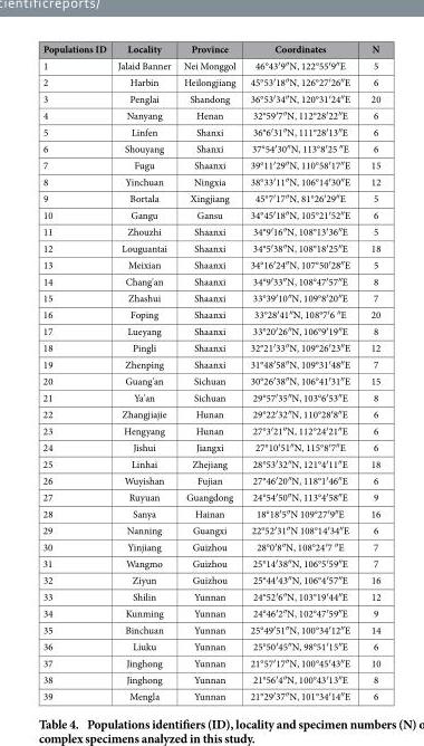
<table><thead><tr><td>Populations ID</td><td>Locality</td><td>Province</td><td>Coordinates</td><td>N</td></tr></thead><tbody><tr><td>1</td><td>Jalaid Banner</td><td>Nei Monggol</td><td>46°43′ 9″ N, 122°55′ 9″ E</td><td>5</td></tr><tr><td>2</td><td>Harbin</td><td>Heilongjiang</td><td>45°53′ 18″ N, 126°27′ 26″ E</td><td>6</td></tr><tr><td>3</td><td>Penglai</td><td>Shandong</td><td>36°53′ 34″ N, 120°31′ 24″ E</td><td>20</td></tr><tr><td>4</td><td>Nanyang</td><td>Henan</td><td>32°59′ 7″ N, 112°28′ 22″ E</td><td>6</td></tr><tr><td>5</td><td>Linfen</td><td>Shanxi</td><td>36°6′ 31″ N, 111°28′ 13″ E</td><td>6</td></tr><tr><td>6</td><td>Shouyang</td><td>Shanxi</td><td>37°54′ 30″ N, 113°8′ 25 ″ E</td><td>6</td></tr><tr><td>7</td><td>Fugu</td><td>Shaanxi</td><td>39°11′ 29″ N, 110°58′ 17″ E</td><td>15</td></tr><tr><td>8</td><td>Yinchuan</td><td>Ningxia</td><td>38°33′ 11″ N, 106°14′ 30″ E</td><td>12</td></tr><tr><td>9</td><td>Bortala</td><td>Xingjiang</td><td>45°7′ 17″ N, 81°26′ 29″ E</td><td>5</td></tr><tr><td>10</td><td>Gangu</td><td>Gansu</td><td>34°45′ 18″ N, 105°21′ 52″ E</td><td>6</td></tr><tr><td>11</td><td>Zhouzhi</td><td>Shaanxi</td><td>34°9′ 16″ N, 108°13′ 36″ E</td><td>5</td></tr><tr><td>12</td><td>Louguantai</td><td>Shaanxi</td><td>34°5′ 38″ N, 108°18′ 25″ E</td><td>18</td></tr><tr><td>13</td><td>Meixian</td><td>Shaanxi</td><td>34°16′ 24″ N, 107°50′ 28″ E</td><td>5</td></tr><tr><td>14</td><td>Chang&#x27;an</td><td>Shaanxi</td><td>34°9′ 33″ N, 108°47′ 57″ E</td><td>8</td></tr><tr><td>15</td><td>Zhashui</td><td>Shaanxi</td><td>33°39′ 10″ N, 109°8′ 20″ E</td><td>7</td></tr><tr><td>16</td><td>Foping</td><td>Shaanxi</td><td>33°28′ 41″ N, 108°7′ 6 ″ E</td><td>20</td></tr><tr><td>17</td><td>Lueyang</td><td>Shaanxi</td><td>33°20′ 26″ N, 106°9′ 19″ E</td><td>8</td></tr><tr><td>18</td><td>Pingli</td><td>Shaanxi</td><td>32°21′ 33″ N, 109°26′ 23″ E</td><td>12</td></tr><tr><td>19</td><td>Zhenping</td><td>Shaanxi</td><td>31°48′ 58″ N, 109°31′ 48″ E</td><td>7</td></tr><tr><td>20</td><td>Guang&#x27;an</td><td>Sichuan</td><td>30°26′ 38″ N, 106°41′ 31″ E</td><td>15</td></tr><tr><td>21</td><td>Ya&#x27;an</td><td>Sichuan</td><td>29°57′ 35″ N, 103°6′ 53″ E</td><td>8</td></tr><tr><td>22</td><td>Zhangjiajie</td><td>Hunan</td><td>29°22′ 32″ N, 110°28′ 8″ E</td><td>6</td></tr><tr><td>23</td><td>Hengyang</td><td>Hunan</td><td>27°3′ 21″ N, 112°24′ 21″ E</td><td>6</td></tr><tr><td>24</td><td>Jishui</td><td>Jiangxi</td><td>27°10′ 51″ N, 115°8′ 7″ E</td><td>6</td></tr><tr><td>25</td><td>Linhai</td><td>Zhejiang</td><td>28°53′ 32″ N, 121°4′ 11″ E</td><td>18</td></tr><tr><td>26</td><td>Wuyishan</td><td>Fujian</td><td>27°46′ 20″ N, 118°1′ 46″ E</td><td>6</td></tr><tr><td>27</td><td>Ruyuan</td><td>Guangdong</td><td>24°54′ 50″ N, 113°4′ 58″ E</td><td>9</td></tr><tr><td>28</td><td>Sanya</td><td>Hainan</td><td>18°18′ 5″ N 109°27′ 9″ E</td><td>16</td></tr><tr><td>29</td><td>Nanning</td><td>Guangxi</td><td>22°52′ 31″ N 108°14′ 34″ E</td><td>6</td></tr><tr><td>30</td><td>Yinjiang</td><td>Guizhou</td><td>28°0′ 8″ N, 108°24′ 7 ″ E</td><td>7</td></tr><tr><td>31</td><td>Wangmo</td><td>Guizhou</td><td>25°14′ 38″ N, 106°5′ 59″ E</td><td>7</td></tr><tr><td>32</td><td>Ziyun</td><td>Guizhou</td><td>25°44′ 43″ N, 106°4′ 57″ E</td><td>16</td></tr><tr><td>33</td><td>Shilin</td><td>Yunnan</td><td>24°52′ 6″ N, 103°19′ 44″ E</td><td>12</td></tr><tr><td>34</td><td>Kunming</td><td>Yunnan</td><td>24°46′ 2″ N, 102°47′ 59″ E</td><td>9</td></tr><tr><td>35</td><td>Binchuan</td><td>Yunnan</td><td>25°49′ 51″ N, 100°34′ 12″ E</td><td>14</td></tr><tr><td>36</td><td>Liuku</td><td>Yunnan</td><td>25°50′ 45″ N, 98°51′ 15″ E</td><td>6</td></tr><tr><td>37</td><td>Jinghong</td><td>Yunnan</td><td>21°57′ 17″ N, 100°45′ 43″ E</td><td>10</td></tr><tr><td>38</td><td>Jinghong</td><td>Yunnan</td><td>21°56′ 4″ N, 100°43′ 13″ E</td><td>8</td></tr><tr><td>39</td><td>Mengla</td><td>Yunnan</td><td>21°29′ 37″ N, 101°34′ 14″ E</td><td>6</td></tr></tbody></table>